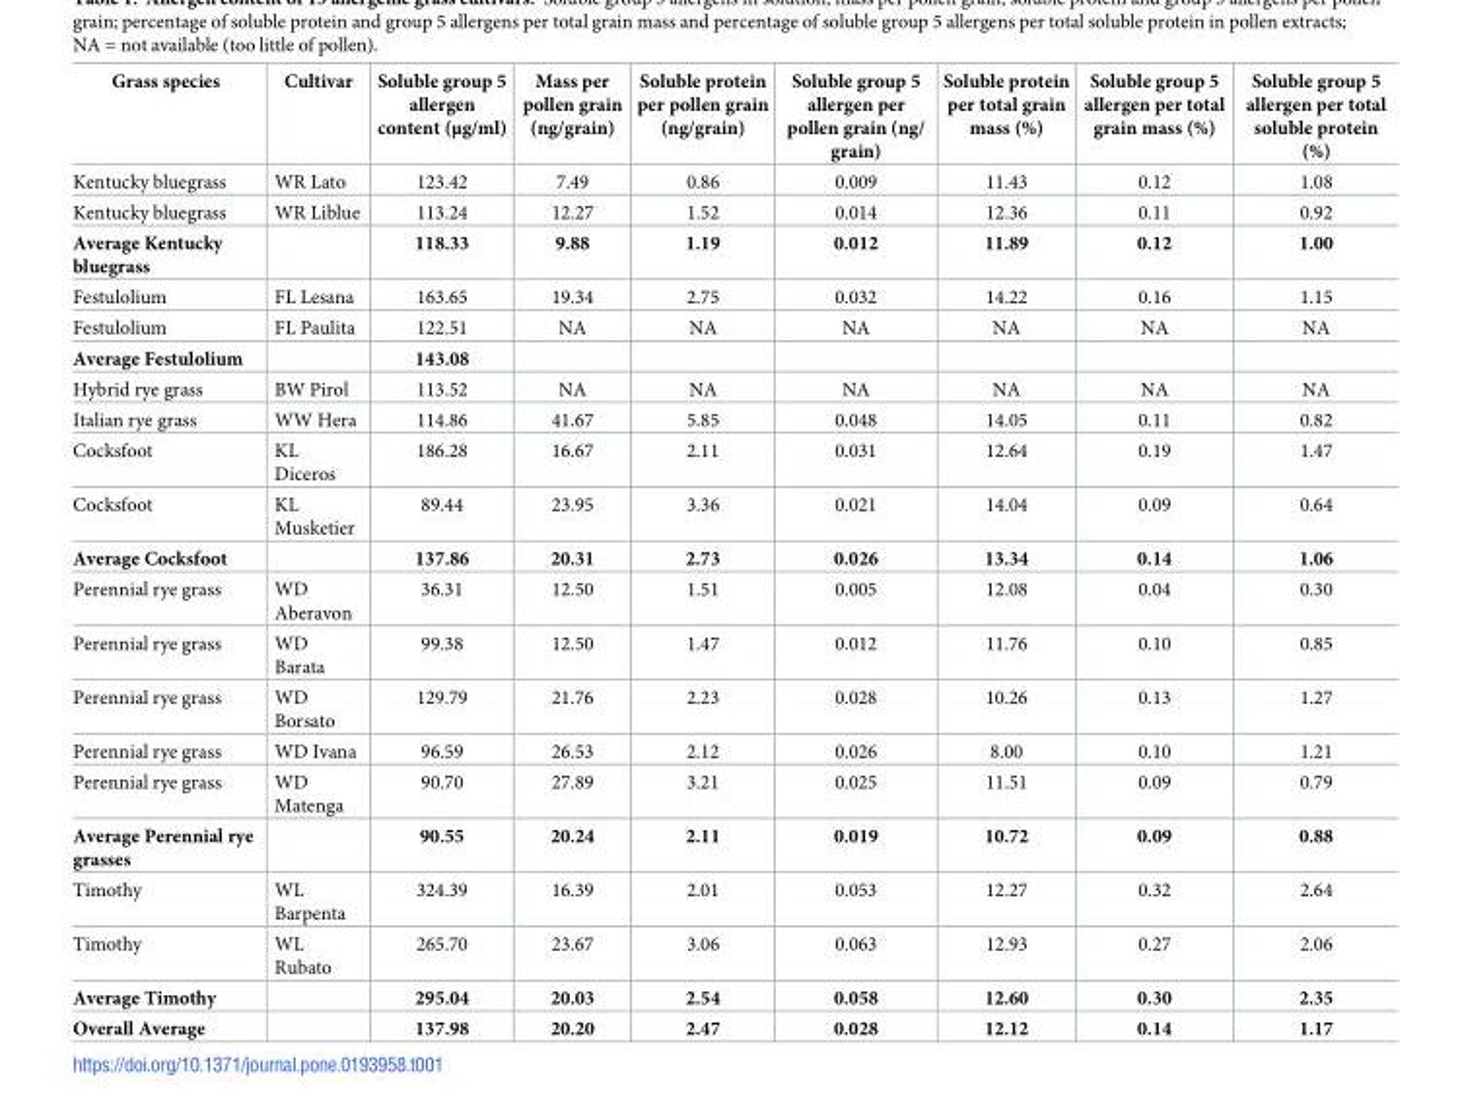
<table><thead><tr><td>Grass species</td><td>Cultivar</td><td>Soluble group 5 allergen content (μg/ml)</td><td>Mass per pollen grain (ng/grain)</td><td>Soluble protein per pollen grain (ng/grain)</td><td>Soluble group 5 allergen per pollen grain (ng/ grain)</td><td>Soluble protein per total grain mass (%)</td><td>Soluble group 5 allergen per total grain mass (%)</td><td>Soluble group 5 allergen per total soluble protein (%)</td></tr></thead><tbody><tr><td>Kentucky bluegrass</td><td>WR Lato</td><td>123.42</td><td>7.49</td><td>0.86</td><td>0.009</td><td>11.43</td><td>0.12</td><td>1.08</td></tr><tr><td>Kentucky bluegrass</td><td>WR Liblue</td><td>113.24</td><td>12.27</td><td>1.52</td><td>0.014</td><td>12.36</td><td>0.11</td><td>0.92</td></tr><tr><td>Average Kentucky bluegrass</td><td></td><td>118.33</td><td>9.88</td><td>1.19</td><td>0.012</td><td>11.89</td><td>0.12</td><td>1.00</td></tr><tr><td>Festulolium</td><td>FL Lesana</td><td>163.65</td><td>19.34</td><td>2.75</td><td>0.032</td><td>14.22</td><td>0.16</td><td>1.15</td></tr><tr><td>Festulolium</td><td>FL Paulita</td><td>122.51</td><td>NA</td><td>NA</td><td>NA</td><td>NA</td><td>NA</td><td>NA</td></tr><tr><td>Average Festulolium</td><td></td><td>143.08</td><td></td><td></td><td></td><td></td><td></td><td></td></tr><tr><td>Hybrid rye grass</td><td>BW Pirol</td><td>113.52</td><td>NA</td><td>NA</td><td>NA</td><td>NA</td><td>NA</td><td>NA</td></tr><tr><td>Italian rye grass</td><td>WW Hera</td><td>114.86</td><td>41.67</td><td>5.85</td><td>0.048</td><td>14.05</td><td>0.11</td><td>0.82</td></tr><tr><td>Cocksfoot</td><td>KL Diceros</td><td>186.28</td><td>16.67</td><td>2.11</td><td>0.031</td><td>12.64</td><td>0.19</td><td>1.47</td></tr><tr><td>Cocksfoot</td><td>KL Musketier</td><td>89.44</td><td>23.95</td><td>3.36</td><td>0.021</td><td>14.04</td><td>0.09</td><td>0.64</td></tr><tr><td>Average Cocksfoot</td><td></td><td>137.86</td><td>20.31</td><td>2.73</td><td>0.026</td><td>13.34</td><td>0.14</td><td>1.06</td></tr><tr><td>Perennial rye grass</td><td>WD Aberavon</td><td>36.31</td><td>12.50</td><td>1.51</td><td>0.005</td><td>12.08</td><td>0.04</td><td>0.30</td></tr><tr><td>Perennial rye grass</td><td>WD Barata</td><td>99.38</td><td>12.50</td><td>1.47</td><td>0.012</td><td>11.76</td><td>0.10</td><td>0.85</td></tr><tr><td>Perennial rye grass</td><td>WD Borsato</td><td>129.79</td><td>21.76</td><td>2.23</td><td>0.028</td><td>10.26</td><td>0.13</td><td>1.27</td></tr><tr><td>Perennial rye grass</td><td>WD Ivana</td><td>96.59</td><td>26.53</td><td>2.12</td><td>0.026</td><td>8.00</td><td>0.10</td><td>1.21</td></tr><tr><td>Perennial rye grass</td><td>WD Matenga</td><td>90.70</td><td>27.89</td><td>3.21</td><td>0.025</td><td>11.51</td><td>0.09</td><td>0.79</td></tr><tr><td>Average Perennial rye grasses</td><td></td><td>90.55</td><td>20.24</td><td>2.11</td><td>0.019</td><td>10.72</td><td>0.09</td><td>0.88</td></tr><tr><td>Timothy</td><td>WL Barpenta</td><td>324.39</td><td>16.39</td><td>2.01</td><td>0.053</td><td>12.27</td><td>0.32</td><td>2.64</td></tr><tr><td>Timothy</td><td>WL Rubato</td><td>265.70</td><td>23.67</td><td>3.06</td><td>0.063</td><td>12.93</td><td>0.27</td><td>2.06</td></tr><tr><td>Average Timothy</td><td></td><td>295.04</td><td>20.03</td><td>2.54</td><td>0.058</td><td>12.60</td><td>0.30</td><td>2.35</td></tr><tr><td>Overall Average</td><td></td><td>137.98</td><td>20.20</td><td>2.47</td><td>0.028</td><td>12.12</td><td>0.14</td><td>1.17</td></tr></tbody></table>